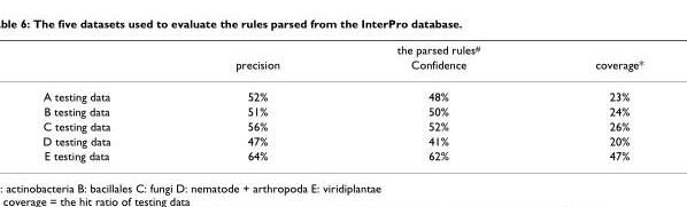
<table><thead><tr><td rowspan="2"></td><td colspan="3">the parsed rules#</td></tr><tr><td>precision</td><td>Confidence</td><td>coverage*</td></tr></thead><tbody><tr><td>A testing data</td><td>52%</td><td>48%</td><td>23%</td></tr><tr><td>B testing data</td><td>51%</td><td>50%</td><td>24%</td></tr><tr><td>C testing data</td><td>56%</td><td>52%</td><td>26%</td></tr><tr><td>D testing data</td><td>47%</td><td>41%</td><td>20%</td></tr><tr><td>E testing data</td><td>64%</td><td>62%</td><td>47%</td></tr></tbody></table>